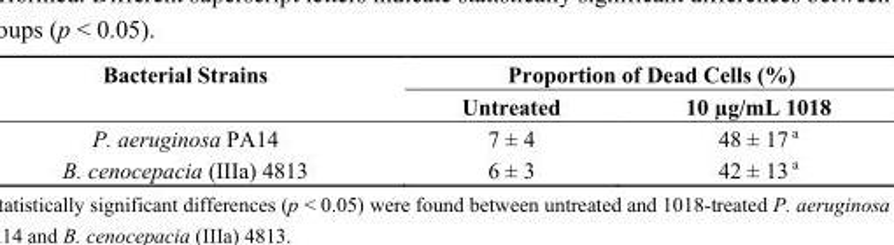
<table><thead><tr><td rowspan="2">Bacterial Strains</td><td colspan="2">Proportion of Dead Cells (%)</td></tr><tr><td>Untreated</td><td>10 µg/mL 1018</td></tr></thead><tbody><tr><td>P. aeruginosa PA14</td><td>7 ± 4</td><td>48 ± 17 <sup>a</sup></td></tr><tr><td>B. cenocepacia (IIIa) 4813</td><td>6 ± 3</td><td>42 ± 13 <sup>a</sup></td></tr></tbody></table>